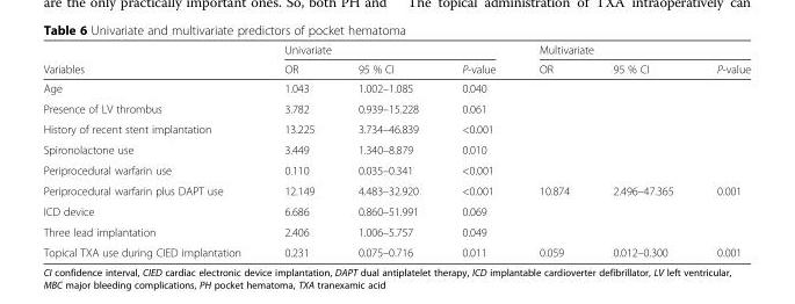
<table><thead><tr><td rowspan="2">Variables</td><td colspan="3">Univariate</td><td colspan="3">Multivariate</td></tr><tr><td>OR</td><td>95 % CI</td><td>P-value</td><td>OR</td><td>95 % CI</td><td>P-value</td></tr></thead><tbody><tr><td>Age</td><td>1.043</td><td>1.002–1.085</td><td>0.040</td><td></td><td></td><td></td></tr><tr><td>Presence of LV thrombus</td><td>3.782</td><td>0.939–15.228</td><td>0.061</td><td></td><td></td><td></td></tr><tr><td>History of recent stent implantation</td><td>13.225</td><td>3.734–46.839</td><td>&lt;0.001</td><td></td><td></td><td></td></tr><tr><td>Spironolactone use</td><td>3.449</td><td>1.340–8.879</td><td>0.010</td><td></td><td></td><td></td></tr><tr><td>Periprocedural warfarin use</td><td>0.110</td><td>0.035–0.341</td><td>&lt;0.001</td><td></td><td></td><td></td></tr><tr><td>Periprocedural warfarin plus DAPT use</td><td>12.149</td><td>4.483–32.920</td><td>&lt;0.001</td><td>10.874</td><td>2.496–47.365</td><td>0.001</td></tr><tr><td>ICD device</td><td>6.686</td><td>0.860–51.991</td><td>0.069</td><td></td><td></td><td></td></tr><tr><td>Three lead implantation</td><td>2.406</td><td>1.006–5.757</td><td>0.049</td><td></td><td></td><td></td></tr><tr><td>Topical TXA use during CIED implantation</td><td>0.231</td><td>0.075–0.716</td><td>0.011</td><td>0.059</td><td>0.012–0.300</td><td>0.001</td></tr></tbody></table>